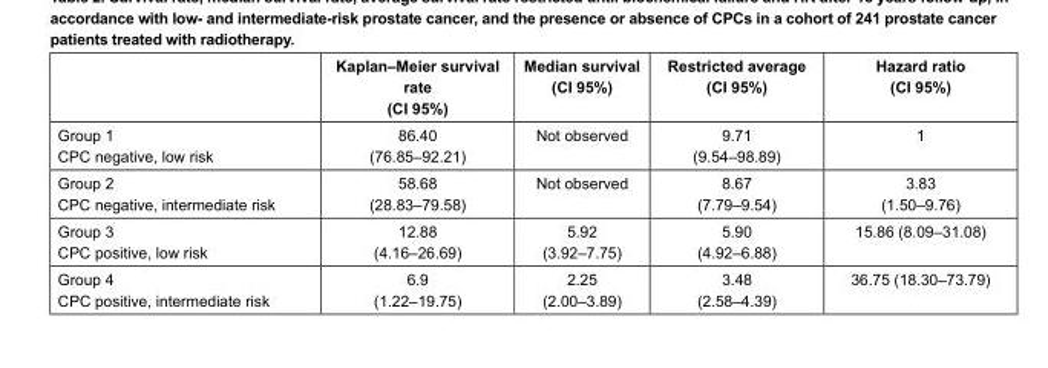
<table><thead><tr><td></td><td>Kaplan–Meier survival rate (CI 95%)</td><td>Median survival (CI 95%)</td><td>Restricted average (CI 95%)</td><td>Hazard ratio (CI 95%)</td></tr></thead><tbody><tr><td>Group 1 CPC negative, low risk</td><td>86.40 (76.85–92.21)</td><td>Not observed</td><td>9.71 (9.54–98.89)</td><td>1</td></tr><tr><td>Group 2 CPC negative, intermediate risk</td><td>58.68 (28.83–79.58)</td><td>Not observed</td><td>8.67 (7.79–9.54)</td><td>3.83 (1.50–9.76)</td></tr><tr><td>Group 3 CPC positive, low risk</td><td>12.88 (4.16–26.69)</td><td>5.92 (3.92–7.75)</td><td>5.90 (4.92–6.88)</td><td>15.86 (8.09–31.08)</td></tr><tr><td>Group 4 CPC positive, intermediate risk</td><td>6.9 (1.22–19.75)</td><td>2.25 (2.00–3.89)</td><td>3.48 (2.58–4.39)</td><td>36.75 (18.30–73.79)</td></tr></tbody></table>